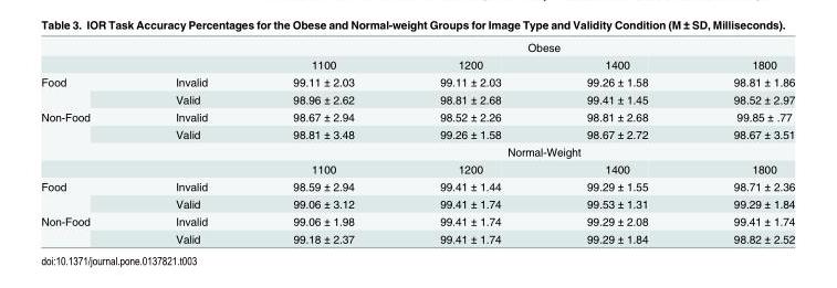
<table><thead><tr><td></td><td></td><td colspan="4">Obese</td></tr><tr><td colspan="2"></td><td>1100</td><td>1200</td><td>1400</td><td>1800</td></tr></thead><tbody><tr><td rowspan="2">Food</td><td>Invalid</td><td>99.11 ± 2.03</td><td>99.11 ± 2.03</td><td>99.26 ± 1.58</td><td>98.81 ± 1.86</td></tr><tr><td>Valid</td><td>98.96 ± 2.62</td><td>98.81 ± 2.68</td><td>99.41 ± 1.45</td><td>98.52 ± 2.97</td></tr><tr><td rowspan="2">Non-Food</td><td>Invalid</td><td>98.67 ± 2.94</td><td>98.52 ± 2.26</td><td>98.81 ± 2.68</td><td>99.85 ± .77</td></tr><tr><td>Valid</td><td>98.81 ± 3.48</td><td>99.26 ± 1.58</td><td>98.67 ± 2.72</td><td>98.67 ± 3.51</td></tr><tr><td colspan="2"></td><td colspan="4">Normal-Weight</td></tr><tr><td colspan="2"></td><td>1100</td><td>1200</td><td>1400</td><td>1800</td></tr><tr><td rowspan="2">Food</td><td>Invalid</td><td>98.59 ± 2.94</td><td>99.41 ± 1.44</td><td>99.29 ± 1.55</td><td>98.71 ± 2.36</td></tr><tr><td>Valid</td><td>99.06 ± 3.12</td><td>99.41 ± 1.74</td><td>99.53 ± 1.31</td><td>99.29 ± 1.84</td></tr><tr><td rowspan="2">Non-Food</td><td>Invalid</td><td>99.06 ± 1.98</td><td>99.41 ± 1.74</td><td>99.29 ± 2.08</td><td>99.41 ± 1.74</td></tr><tr><td>Valid</td><td>99.18 ± 2.37</td><td>99.41 ± 1.74</td><td>99.29 ± 1.84</td><td>98.82 ± 2.52</td></tr></tbody></table>